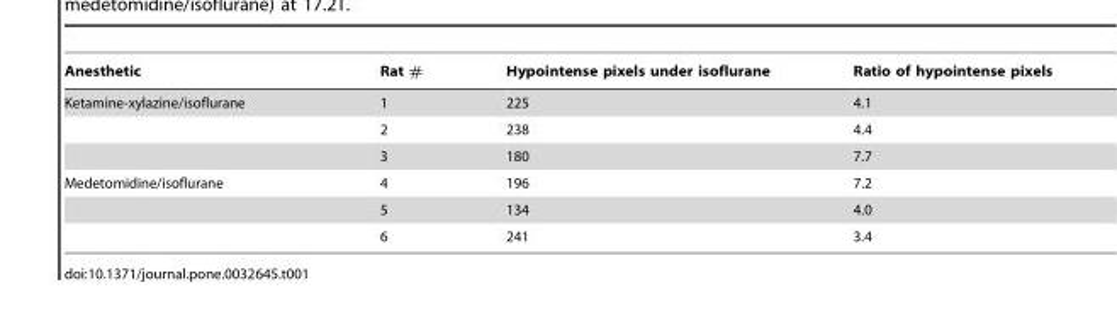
<table><thead><tr><td>Anesthetic</td><td>Rat #</td><td>Hypointense pixels under isoflurane</td><td>Ratio of hypointense pixels</td></tr></thead><tbody><tr><td rowspan="3">Ketamine-xylazine/isoflurane</td><td>1</td><td>225</td><td>4.1</td></tr><tr><td>2</td><td>238</td><td>4.4</td></tr><tr><td>3</td><td>180</td><td>7.7</td></tr><tr><td rowspan="3">Medetomidine/isoflurane</td><td>4</td><td>196</td><td>7.2</td></tr><tr><td>5</td><td>134</td><td>4.0</td></tr><tr><td>6</td><td>241</td><td>3.4</td></tr></tbody></table>